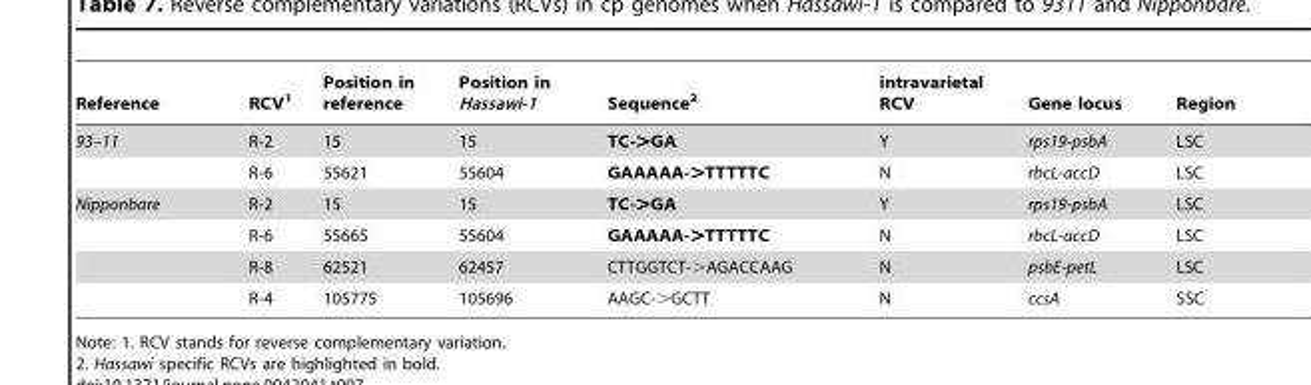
<table><thead><tr><td>Reference</td><td>RCV<sup>1</sup></td><td>Position in reference</td><td>Position in Hassawi-1</td><td>Sequence<sup>2</sup></td><td>intravarietal RCV</td><td>Gene locus</td><td>Region</td></tr></thead><tbody><tr><td rowspan="2">93–11</td><td>R-2</td><td>15</td><td>15</td><td>TC-&gt;GA</td><td>Y</td><td>rps19-psbA</td><td>LSC</td></tr><tr><td>R-6</td><td>55621</td><td>55604</td><td>GAAAAA-&gt;TTTTTC</td><td>N</td><td>rbcL-accD</td><td>LSC</td></tr><tr><td rowspan="4">Nipponbare</td><td>R-2</td><td>15</td><td>15</td><td>TC-&gt;GA</td><td>Y</td><td>rps19-psbA</td><td>LSC</td></tr><tr><td>R-6</td><td>55665</td><td>55604</td><td>GAAAAA-&gt;TTTTTC</td><td>N</td><td>rbcL-accD</td><td>LSC</td></tr><tr><td>R-8</td><td>62521</td><td>62457</td><td>CTTGGTCT-&gt;AGACCAAG</td><td>N</td><td>psbE-petL</td><td>LSC</td></tr><tr><td>R-4</td><td>105775</td><td>105696</td><td>AAGC-&gt;GCTT</td><td>N</td><td>ccsA</td><td>SSC</td></tr></tbody></table>